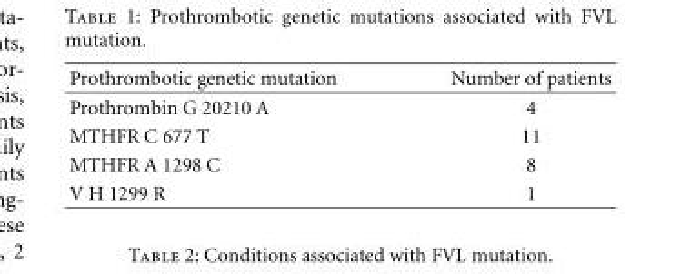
<table><thead><tr><td>Prothrombotic genetic mutation</td><td>Number of patients</td></tr></thead><tbody><tr><td>Prothrombin G 20210 A</td><td>4</td></tr><tr><td>MTHFR C 677 T</td><td>11</td></tr><tr><td>MTHFR A 1298 C</td><td>8</td></tr><tr><td>V H 1299 R</td><td>1</td></tr></tbody></table>